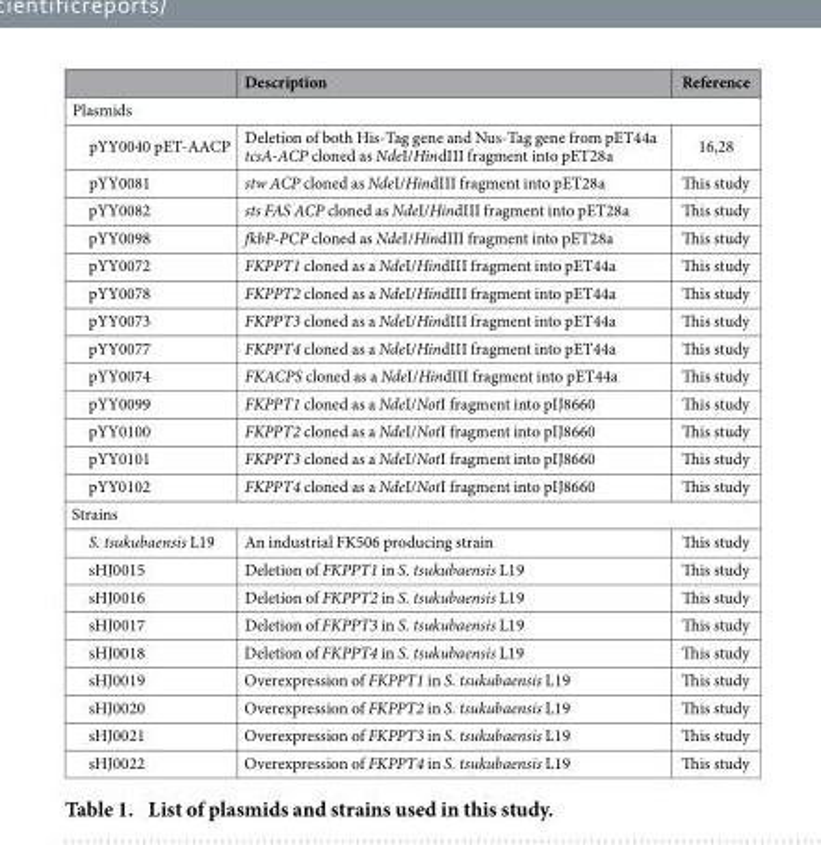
<table><thead><tr><td></td><td>Description</td><td>Reference</td></tr></thead><tbody><tr><td colspan="3">Plasmids</td></tr><tr><td>pYY0040 pET-AACP</td><td>Deletion of both His-Tag gene and Nus-Tag gene from pET44a tcsA-ACP cloned as NdeI/HindIII fragment into pET28a</td><td>16,28</td></tr><tr><td>pYY0081</td><td>stw ACP cloned as NdeI/HindIII fragment into pET28a</td><td>This study</td></tr><tr><td>pYY0082</td><td>sts FAS ACP cloned as NdeI/HindIII fragment into pET28a</td><td>This study</td></tr><tr><td>pYY0098</td><td>fkbP-PCP cloned as NdeI/HindIII fragment into pET28a</td><td>This study</td></tr><tr><td>pYY0072</td><td>FKPPT1 cloned as a NdeI/HindIII fragment into pET44a</td><td>This study</td></tr><tr><td>pYY0078</td><td>FKPPT2 cloned as a NdeI/HindIII fragment into pET44a</td><td>This study</td></tr><tr><td>pYY0073</td><td>FKPPT3 cloned as a NdeI/HindIII fragment into pET44a</td><td>This study</td></tr><tr><td>pYY0077</td><td>FKPPT4 cloned as a NdeI/HindIII fragment into pET44a</td><td>This study</td></tr><tr><td>pYY0074</td><td>FKACPS cloned as a NdeI/HindIII fragment into pET44a</td><td>This study</td></tr><tr><td>pYY0099</td><td>FKPPT1 cloned as a NdeI/NotI fragment into pIJ8660</td><td>This study</td></tr><tr><td>pYY0100</td><td>FKPPT2 cloned as a NdeI/NotI fragment into pIJ8660</td><td>This study</td></tr><tr><td>pYY0101</td><td>FKPPT3 cloned as a NdeI/NotI fragment into pIJ8660</td><td>This study</td></tr><tr><td>pYY0102</td><td>FKPPT4 cloned as a NdeI/NotI fragment into pIJ8660</td><td>This study</td></tr><tr><td colspan="3">Strains</td></tr><tr><td>S. tsukubaensis L19</td><td>An industrial FK506 producing strain</td><td>This study</td></tr><tr><td>sHJ0015</td><td>Deletion of FKPPT1 in S. tsukubaensis L19</td><td>This study</td></tr><tr><td>sHJ0016</td><td>Deletion of FKPPT2 in S. tsukubaensis L19</td><td>This study</td></tr><tr><td>sHJ0017</td><td>Deletion of FKPPT3 in S. tsukubaensis L19</td><td>This study</td></tr><tr><td>sHJ0018</td><td>Deletion of FKPPT4 in S. tsukubaensis L19</td><td>This study</td></tr><tr><td>sHJ0019</td><td>Overexpression of FKPPT1 in S. tsukubaensis L19</td><td>This study</td></tr><tr><td>sHJ0020</td><td>Overexpression of FKPPT2 in S. tsukubaensis L19</td><td>This study</td></tr><tr><td>sHJ0021</td><td>Overexpression of FKPPT3 in S. tsukubaensis L19</td><td>This study</td></tr><tr><td>sHJ0022</td><td>Overexpression of FKPPT4 in S. tsukubaensis L19</td><td>This study</td></tr></tbody></table>